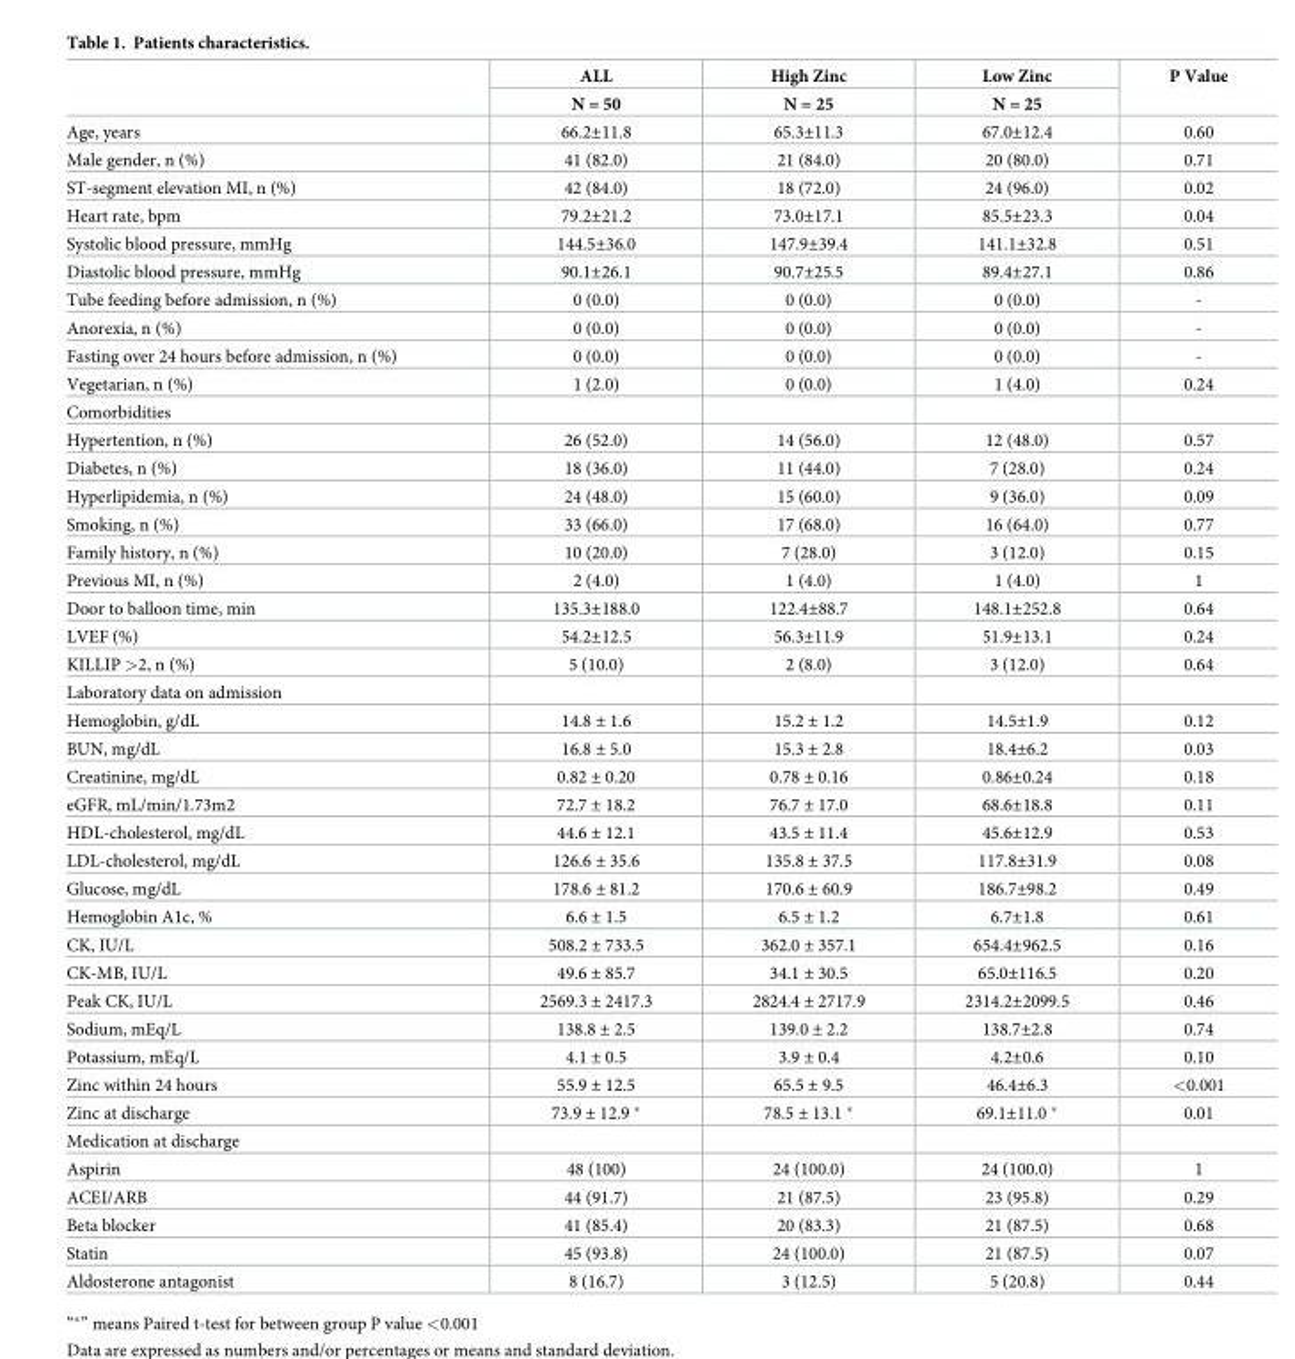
<table><thead><tr><td rowspan="2"></td><td rowspan="2">ALL N = 50</td><td rowspan="2">High Zinc N = 25</td><td rowspan="2">Low Zinc N = 25</td><td rowspan="2">P Value</td></tr><tr></tr></thead><tbody><tr><td>Age, years</td><td>66.2±11.8</td><td>65.3±11.3</td><td>67.0±12.4</td><td>0.60</td></tr><tr><td>Male gender, n (%)</td><td>41 (82.0)</td><td>21 (84.0)</td><td>20 (80.0)</td><td>0.71</td></tr><tr><td>ST-segment elevation MI, n (%)</td><td>42 (84.0)</td><td>18 (72.0)</td><td>24 (96.0)</td><td>0.02</td></tr><tr><td>Heart rate, bpm</td><td>79.2±21.2</td><td>73.0±17.1</td><td>85.5±23.3</td><td>0.04</td></tr><tr><td>Systolic blood pressure, mmHg</td><td>144.5±36.0</td><td>147.9±39.4</td><td>141.1±32.8</td><td>0.51</td></tr><tr><td>Diastolic blood pressure, mmHg</td><td>90.1±26.1</td><td>90.7±25.5</td><td>89.4±27.1</td><td>0.86</td></tr><tr><td>Tube feeding before admission, n (%)</td><td>0 (0.0)</td><td>0 (0.0)</td><td>0 (0.0)</td><td>-</td></tr><tr><td>Anorexia, n (%)</td><td>0 (0.0)</td><td>0 (0.0)</td><td>0 (0.0)</td><td>-</td></tr><tr><td>Fasting over 24 hours before admission, n (%)</td><td>0 (0.0)</td><td>0 (0.0)</td><td>0 (0.0)</td><td>-</td></tr><tr><td>Vegetarian, n (%)</td><td>1 (2.0)</td><td>0 (0.0)</td><td>1 (4.0)</td><td>0.24</td></tr><tr><td colspan="5">Comorbidities</td></tr><tr><td>Hypertention, n (%)</td><td>26 (52.0)</td><td>14 (56.0)</td><td>12 (48.0)</td><td>0.57</td></tr><tr><td>Diabetes, n (%)</td><td>18 (36.0)</td><td>11 (44.0)</td><td>7 (28.0)</td><td>0.24</td></tr><tr><td>Hyperlipidemia, n (%)</td><td>24 (48.0)</td><td>15 (60.0)</td><td>9 (36.0)</td><td>0.09</td></tr><tr><td>Smoking, n (%)</td><td>33 (66.0)</td><td>17 (68.0)</td><td>16 (64.0)</td><td>0.77</td></tr><tr><td>Family history, n (%)</td><td>10 (20.0)</td><td>7 (28.0)</td><td>3 (12.0)</td><td>0.15</td></tr><tr><td>Previous MI, n (%)</td><td>2 (4.0)</td><td>1 (4.0)</td><td>1 (4.0)</td><td>1</td></tr><tr><td>Door to balloon time, min</td><td>135.3±188.0</td><td>122.4±88.7</td><td>148.1±252.8</td><td>0.64</td></tr><tr><td>LVEF (%)</td><td>54.2±12.5</td><td>56.3±11.9</td><td>51.9±13.1</td><td>0.24</td></tr><tr><td>KILLIP &gt;2, n (%)</td><td>5 (10.0)</td><td>2 (8.0)</td><td>3 (12.0)</td><td>0.64</td></tr><tr><td colspan="5">Laboratory data on admission</td></tr><tr><td>Hemoglobin, g/dL</td><td>14.8 ± 1.6</td><td>15.2 ± 1.2</td><td>14.5±1.9</td><td>0.12</td></tr><tr><td>BUN, mg/dL</td><td>16.8 ± 5.0</td><td>15.3 ± 2.8</td><td>18.4±6.2</td><td>0.03</td></tr><tr><td>Creatinine, mg/dL</td><td>0.82 ± 0.20</td><td>0.78 ± 0.16</td><td>0.86±0.24</td><td>0.18</td></tr><tr><td>eGFR, mL/min/1.73m2</td><td>72.7 ± 18.2</td><td>76.7 ± 17.0</td><td>68.6±18.8</td><td>0.11</td></tr><tr><td>HDL-cholesterol, mg/dL</td><td>44.6 ± 12.1</td><td>43.5 ± 11.4</td><td>45.6±12.9</td><td>0.53</td></tr><tr><td>LDL-cholesterol, mg/dL</td><td>126.6 ± 35.6</td><td>135.8 ± 37.5</td><td>117.8±31.9</td><td>0.08</td></tr><tr><td>Glucose, mg/dL</td><td>178.6 ± 81.2</td><td>170.6 ± 60.9</td><td>186.7±98.2</td><td>0.49</td></tr><tr><td>Hemoglobin A1c, %</td><td>6.6 ± 1.5</td><td>6.5 ± 1.2</td><td>6.7±1.8</td><td>0.61</td></tr><tr><td>CK, IU/L</td><td>508.2 ± 733.5</td><td>362.0 ± 357.1</td><td>654.4±962.5</td><td>0.16</td></tr><tr><td>CK-MB, IU/L</td><td>49.6 ± 85.7</td><td>34.1 ± 30.5</td><td>65.0±116.5</td><td>0.20</td></tr><tr><td>Peak CK, IU/L</td><td>2569.3 ± 2417.3</td><td>2824.4 ± 2717.9</td><td>2314.2±2099.5</td><td>0.46</td></tr><tr><td>Sodium, mEq/L</td><td>138.8 ± 2.5</td><td>139.0 ± 2.2</td><td>138.7±2.8</td><td>0.74</td></tr><tr><td>Potassium, mEq/L</td><td>4.1 ± 0.5</td><td>3.9 ± 0.4</td><td>4.2±0.6</td><td>0.10</td></tr><tr><td>Zinc within 24 hours</td><td>55.9 ± 12.5</td><td>65.5 ± 9.5</td><td>46.4±6.3</td><td>&lt;0.001</td></tr><tr><td>Zinc at discharge</td><td>73.9 ± 12.9 *</td><td>78.5 ± 13.1 *</td><td>69.1±11.0 *</td><td>0.01</td></tr><tr><td colspan="5">Medication at discharge</td></tr><tr><td>Aspirin</td><td>48 (100)</td><td>24 (100.0)</td><td>24 (100.0)</td><td>1</td></tr><tr><td>ACEI/ARB</td><td>44 (91.7)</td><td>21 (87.5)</td><td>23 (95.8)</td><td>0.29</td></tr><tr><td>Beta blocker</td><td>41 (85.4)</td><td>20 (83.3)</td><td>21 (87.5)</td><td>0.68</td></tr><tr><td>Statin</td><td>45 (93.8)</td><td>24 (100.0)</td><td>21 (87.5)</td><td>0.07</td></tr><tr><td>Aldosterone antagonist</td><td>8 (16.7)</td><td>3 (12.5)</td><td>5 (20.8)</td><td>0.44</td></tr></tbody></table>